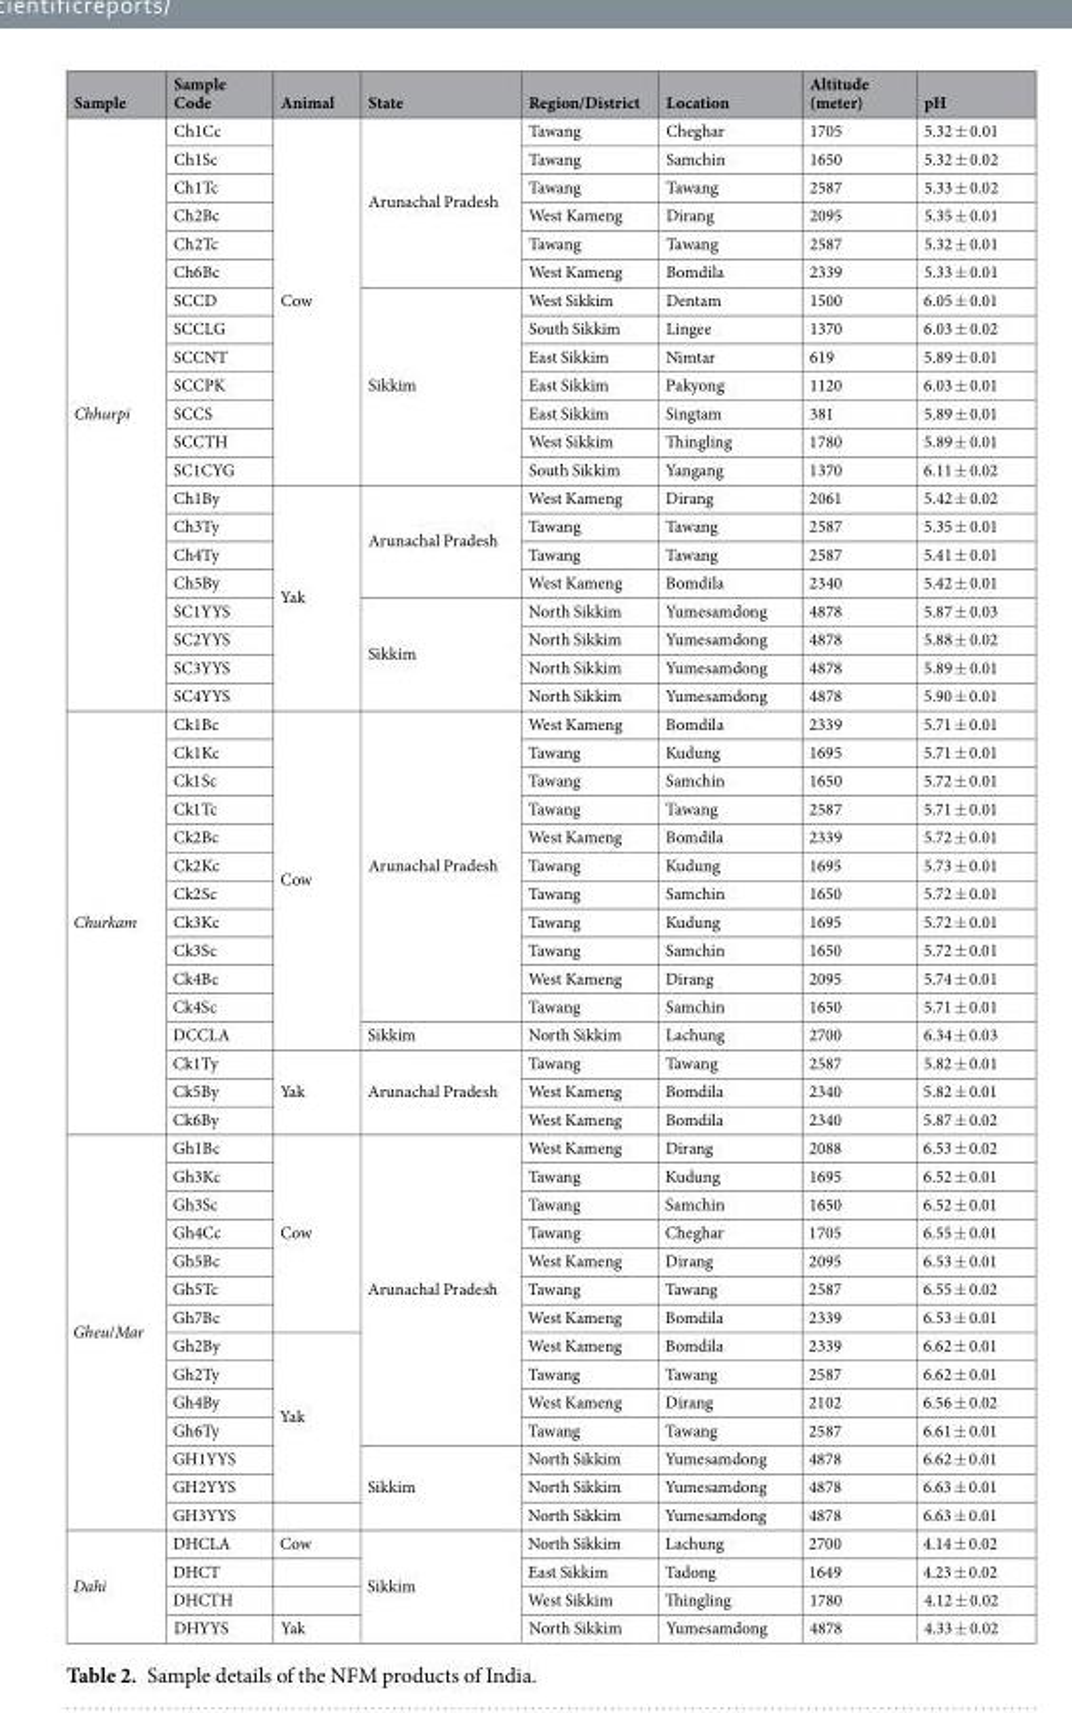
<table><thead><tr><td>Sample</td><td>Sample Code</td><td>Animal</td><td>State</td><td>Region/District</td><td>Location</td><td>Altitude (meter)</td><td>pH</td></tr></thead><tbody><tr><td rowspan="21">Chhurpi</td><td>Ch1Cc</td><td rowspan="13">Cow</td><td rowspan="6">Arunachal Pradesh</td><td>Tawang</td><td>Cheghar</td><td>1705</td><td>5.32 ± 0.01</td></tr><tr><td>Ch1Sc</td><td>Tawang</td><td>Samchin</td><td>1650</td><td>5.32 ± 0.02</td></tr><tr><td>Ch1Tc</td><td>Tawang</td><td>Tawang</td><td>2587</td><td>5.33 ± 0.02</td></tr><tr><td>Ch2Bc</td><td>West Kameng</td><td>Dirang</td><td>2095</td><td>5.35 ± 0.01</td></tr><tr><td>Ch2Tc</td><td>Tawang</td><td>Tawang</td><td>2587</td><td>5.32 ± 0.01</td></tr><tr><td>Ch6Bc</td><td>West Kameng</td><td>Bomdila</td><td>2339</td><td>5.33 ± 0.01</td></tr><tr><td>SCCD</td><td rowspan="7">Sikkim</td><td>West Sikkim</td><td>Dentam</td><td>1500</td><td>6.05 ± 0.01</td></tr><tr><td>SCCLG</td><td>South Sikkim</td><td>Lingee</td><td>1370</td><td>6.03 ± 0.02</td></tr><tr><td>SCCNT</td><td>East Sikkim</td><td>Nimtar</td><td>619</td><td>5.89 ± 0.01</td></tr><tr><td>SCCPK</td><td>East Sikkim</td><td>Pakyong</td><td>1120</td><td>6.03 ± 0.01</td></tr><tr><td>SCCS</td><td>East Sikkim</td><td>Singtam</td><td>381</td><td>5.89 ± 0.01</td></tr><tr><td>SCCTH</td><td>West Sikkim</td><td>Thingling</td><td>1780</td><td>5.89 ± 0.01</td></tr><tr><td>SC1CYG</td><td>South Sikkim</td><td>Yangang</td><td>1370</td><td>6.11 ± 0.02</td></tr><tr><td>Ch1By</td><td rowspan="8">Yak</td><td rowspan="4">Arunachal Pradesh</td><td>West Kameng</td><td>Dirang</td><td>2061</td><td>5.42 ± 0.02</td></tr><tr><td>Ch3Ty</td><td>Tawang</td><td>Tawang</td><td>2587</td><td>5.35 ± 0.01</td></tr><tr><td>Ch4Ty</td><td>Tawang</td><td>Tawang</td><td>2587</td><td>5.41 ± 0.01</td></tr><tr><td>Ch5By</td><td>West Kameng</td><td>Bomdila</td><td>2340</td><td>5.42 ± 0.01</td></tr><tr><td>SC1YYS</td><td rowspan="4">Sikkim</td><td>North Sikkim</td><td>Yumesamdong</td><td>4878</td><td>5.87 ± 0.03</td></tr><tr><td>SC2YYS</td><td>North Sikkim</td><td>Yumesamdong</td><td>4878</td><td>5.88 ± 0.02</td></tr><tr><td>SC3YYS</td><td>North Sikkim</td><td>Yumesamdong</td><td>4878</td><td>5.89 ± 0.01</td></tr><tr><td>SC4YYS</td><td>North Sikkim</td><td>Yumesamdong</td><td>4878</td><td>5.90 ± 0.01</td></tr><tr><td rowspan="15">Churkam</td><td>Ck1Bc</td><td rowspan="12">Cow</td><td rowspan="11">Arunachal Pradesh</td><td>West Kameng</td><td>Bomdila</td><td>2339</td><td>5.71 ± 0.01</td></tr><tr><td>Ck1Kc</td><td>Tawang</td><td>Kudung</td><td>1695</td><td>5.71 ± 0.01</td></tr><tr><td>Ck1Sc</td><td>Tawang</td><td>Samchin</td><td>1650</td><td>5.72 ± 0.01</td></tr><tr><td>Ck1Tc</td><td>Tawang</td><td>Tawang</td><td>2587</td><td>5.71 ± 0.01</td></tr><tr><td>Ck2Bc</td><td>West Kameng</td><td>Bomdila</td><td>2339</td><td>5.72 ± 0.01</td></tr><tr><td>Ck2Kc</td><td>Tawang</td><td>Kudung</td><td>1695</td><td>5.73 ± 0.01</td></tr><tr><td>Ck2Sc</td><td>Tawang</td><td>Samchin</td><td>1650</td><td>5.72 ± 0.01</td></tr><tr><td>Ck3Kc</td><td>Tawang</td><td>Kudung</td><td>1695</td><td>5.72 ± 0.01</td></tr><tr><td>Ck3Sc</td><td>Tawang</td><td>Samchin</td><td>1650</td><td>5.72 ± 0.01</td></tr><tr><td>Ck4Bc</td><td>West Kameng</td><td>Dirang</td><td>2095</td><td>5.74 ± 0.01</td></tr><tr><td>Ck4Sc</td><td>Tawang</td><td>Samchin</td><td>1650</td><td>5.71 ± 0.01</td></tr><tr><td>DCCLA</td><td>Sikkim</td><td>North Sikkim</td><td>Lachung</td><td>2700</td><td>6.34 ± 0.03</td></tr><tr><td>Ck1Ty</td><td rowspan="3">Yak</td><td rowspan="3">Arunachal Pradesh</td><td>Tawang</td><td>Tawang</td><td>2587</td><td>5.82 ± 0.01</td></tr><tr><td>Ck5By</td><td>West Kameng</td><td>Bomdila</td><td>2340</td><td>5.82 ± 0.01</td></tr><tr><td>Ck6By</td><td>West Kameng</td><td>Bomdila</td><td>2340</td><td>5.87 ± 0.02</td></tr><tr><td rowspan="14">Gheu/Mar</td><td>Gh1Bc</td><td rowspan="7">Cow</td><td rowspan="11">Arunachal Pradesh</td><td>West Kameng</td><td>Dirang</td><td>2088</td><td>6.53 ± 0.02</td></tr><tr><td>Gh3Kc</td><td>Tawang</td><td>Kudung</td><td>1695</td><td>6.52 ± 0.01</td></tr><tr><td>Gh3Sc</td><td>Tawang</td><td>Samchin</td><td>1650</td><td>6.52 ± 0.01</td></tr><tr><td>Gh4Cc</td><td>Tawang</td><td>Cheghar</td><td>1705</td><td>6.55 ± 0.01</td></tr><tr><td>Gh5Bc</td><td>West Kameng</td><td>Dirang</td><td>2095</td><td>6.53 ± 0.01</td></tr><tr><td>Gh5Tc</td><td>Tawang</td><td>Tawang</td><td>2587</td><td>6.55 ± 0.02</td></tr><tr><td>Gh7Bc</td><td>West Kameng</td><td>Bomdila</td><td>2339</td><td>6.53 ± 0.01</td></tr><tr><td>Gh2By</td><td rowspan="6">Yak</td><td>West Kameng</td><td>Bomdila</td><td>2339</td><td>6.62 ± 0.01</td></tr><tr><td>Gh2Ty</td><td>Tawang</td><td>Tawang</td><td>2587</td><td>6.62 ± 0.01</td></tr><tr><td>Gh4By</td><td>West Kameng</td><td>Dirang</td><td>2102</td><td>6.56 ± 0.02</td></tr><tr><td>Gh6Ty</td><td>Tawang</td><td>Tawang</td><td>2587</td><td>6.61 ± 0.01</td></tr><tr><td>GH1YYS</td><td rowspan="3">Sikkim</td><td>North Sikkim</td><td>Yumesamdong</td><td>4878</td><td>6.62 ± 0.01</td></tr><tr><td>GH2YYS</td><td>North Sikkim</td><td>Yumesamdong</td><td>4878</td><td>6.63 ± 0.01</td></tr><tr><td>GH3YYS</td><td></td><td>North Sikkim</td><td>Yumesamdong</td><td>4878</td><td>6.63 ± 0.01</td></tr><tr><td rowspan="4">Dahi</td><td>DHCLA</td><td>Cow</td><td rowspan="4">Sikkim</td><td>North Sikkim</td><td>Lachung</td><td>2700</td><td>4.14 ± 0.02</td></tr><tr><td>DHCT</td><td></td><td>East Sikkim</td><td>Tadong</td><td>1649</td><td>4.23 ± 0.02</td></tr><tr><td>DHCTH</td><td></td><td>West Sikkim</td><td>Thingling</td><td>1780</td><td>4.12 ± 0.02</td></tr><tr><td>DHYYS</td><td>Yak</td><td>North Sikkim</td><td>Yumesamdong</td><td>4878</td><td>4.33 ± 0.02</td></tr></tbody></table>